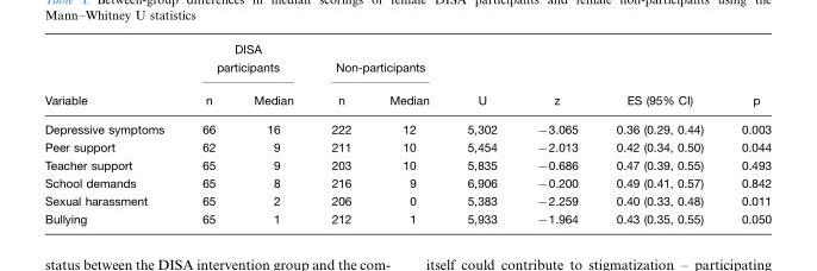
<table><thead><tr><td rowspan="2">Variable</td><td colspan="2">DISA participants</td><td colspan="2">Non-participants</td><td rowspan="2">U</td><td rowspan="2">z</td><td rowspan="2">ES (95% CI)</td><td rowspan="2">p</td></tr><tr><td>n</td><td>Median</td><td>n</td><td>Median</td></tr></thead><tbody><tr><td>Depressive symptoms</td><td>66</td><td>16</td><td>222</td><td>12</td><td>5,302</td><td>−3.065</td><td>0.36 (0.29, 0.44)</td><td>0.003</td></tr><tr><td>Peer support</td><td>62</td><td>9</td><td>211</td><td>10</td><td>5,454</td><td>−2.013</td><td>0.42 (0.34, 0.50)</td><td>0.044</td></tr><tr><td>Teacher support</td><td>65</td><td>9</td><td>203</td><td>10</td><td>5,835</td><td>−0.686</td><td>0.47 (0.39, 0.55)</td><td>0.493</td></tr><tr><td>School demands</td><td>65</td><td>8</td><td>216</td><td>9</td><td>6,906</td><td>−0.200</td><td>0.49 (0.41, 0.57)</td><td>0.842</td></tr><tr><td>Sexual harassment</td><td>65</td><td>2</td><td>206</td><td>0</td><td>5,383</td><td>−2.259</td><td>0.40 (0.33, 0.48)</td><td>0.011</td></tr><tr><td>Bullying</td><td>65</td><td>1</td><td>212</td><td>1</td><td>5,933</td><td>−1.964</td><td>0.43 (0.35, 0.55)</td><td>0.050</td></tr></tbody></table>